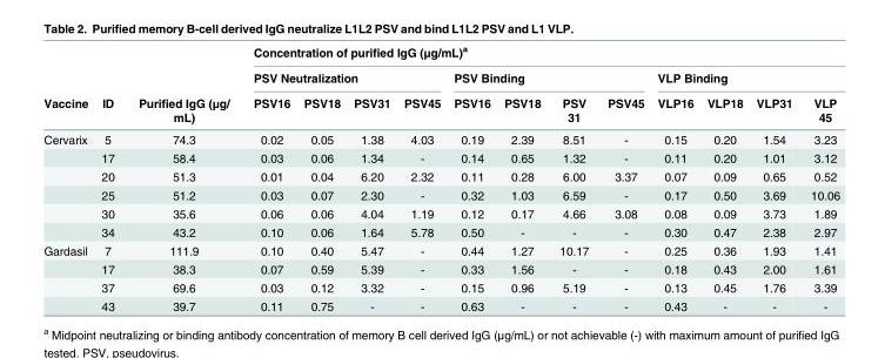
<table><thead><tr><td rowspan="3">Vaccine</td><td rowspan="3">ID</td><td rowspan="3">Purified IgG (μg/ mL)</td><td colspan="12">Concentration of purified IgG (μg/mL)<sup>a</sup></td></tr><tr><td colspan="4">PSV Neutralization</td><td colspan="4">PSV Binding</td><td colspan="4">VLP Binding</td></tr><tr><td>PSV16</td><td>PSV18</td><td>PSV31</td><td>PSV45</td><td>PSV16</td><td>PSV18</td><td>PSV 31</td><td>PSV45</td><td>VLP16</td><td>VLP18</td><td>VLP31</td><td>VLP 45</td></tr></thead><tbody><tr><td rowspan="6">Cervarix</td><td>5</td><td>74.3</td><td>0.02</td><td>0.05</td><td>1.38</td><td>4.03</td><td>0.19</td><td>2.39</td><td>8.51</td><td>-</td><td>0.15</td><td>0.20</td><td>1.54</td><td>3.23</td></tr><tr><td>17</td><td>58.4</td><td>0.03</td><td>0.06</td><td>1.34</td><td>-</td><td>0.14</td><td>0.65</td><td>1.32</td><td>-</td><td>0.11</td><td>0.20</td><td>1.01</td><td>3.12</td></tr><tr><td>20</td><td>51.3</td><td>0.01</td><td>0.04</td><td>6.20</td><td>2.32</td><td>0.11</td><td>0.28</td><td>6.00</td><td>3.37</td><td>0.07</td><td>0.09</td><td>0.65</td><td>0.52</td></tr><tr><td>25</td><td>51.2</td><td>0.03</td><td>0.07</td><td>2.30</td><td>-</td><td>0.32</td><td>1.03</td><td>6.59</td><td>-</td><td>0.17</td><td>0.50</td><td>3.69</td><td>10.06</td></tr><tr><td>30</td><td>35.6</td><td>0.06</td><td>0.06</td><td>4.04</td><td>1.19</td><td>0.12</td><td>0.17</td><td>4.66</td><td>3.08</td><td>0.08</td><td>0.09</td><td>3.73</td><td>1.89</td></tr><tr><td>34</td><td>43.2</td><td>0.10</td><td>0.06</td><td>1.64</td><td>5.78</td><td>0.50</td><td>-</td><td>-</td><td>-</td><td>0.30</td><td>0.47</td><td>2.38</td><td>2.97</td></tr><tr><td rowspan="4">Gardasil</td><td>7</td><td>111.9</td><td>0.10</td><td>0.40</td><td>5.47</td><td>-</td><td>0.44</td><td>1.27</td><td>10.17</td><td>-</td><td>0.25</td><td>0.36</td><td>1.93</td><td>1.41</td></tr><tr><td>17</td><td>38.3</td><td>0.07</td><td>0.59</td><td>5.39</td><td>-</td><td>0.33</td><td>1.56</td><td>-</td><td>-</td><td>0.18</td><td>0.43</td><td>2.00</td><td>1.61</td></tr><tr><td>37</td><td>69.6</td><td>0.03</td><td>0.12</td><td>3.32</td><td>-</td><td>0.15</td><td>0.96</td><td>5.19</td><td>-</td><td>0.13</td><td>0.45</td><td>1.76</td><td>3.39</td></tr><tr><td>43</td><td>39.7</td><td>0.11</td><td>0.75</td><td>-</td><td>-</td><td>0.63</td><td>-</td><td>-</td><td>-</td><td>0.43</td><td>-</td><td>-</td><td>-</td></tr></tbody></table>